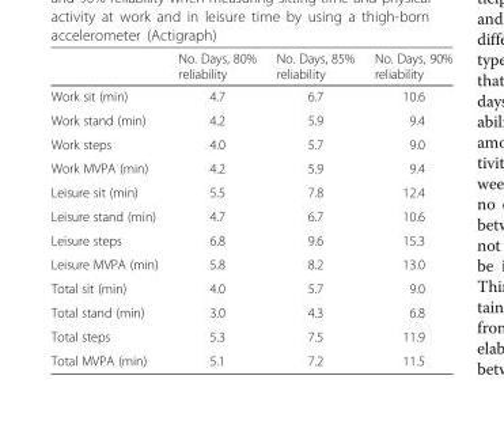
<table><thead><tr><td></td><td>No. Days, 80% reliability</td><td>No. Days, 85% reliability</td><td>No. Days, 90% reliability</td></tr></thead><tbody><tr><td>Work sit (min)</td><td>4.7</td><td>6.7</td><td>10.6</td></tr><tr><td>Work stand (min)</td><td>4.2</td><td>5.9</td><td>9.4</td></tr><tr><td>Work steps</td><td>4.0</td><td>5.7</td><td>9.0</td></tr><tr><td>Work MVPA (min)</td><td>4.2</td><td>5.9</td><td>9.4</td></tr><tr><td>Leisure sit (min)</td><td>5.5</td><td>7.8</td><td>12.4</td></tr><tr><td>Leisure stand (min)</td><td>4.7</td><td>6.7</td><td>10.6</td></tr><tr><td>Leisure steps</td><td>6.8</td><td>9.6</td><td>15.3</td></tr><tr><td>Leisure MVPA (min)</td><td>5.8</td><td>8.2</td><td>13.0</td></tr><tr><td>Total sit (min)</td><td>4.0</td><td>5.7</td><td>9.0</td></tr><tr><td>Total stand (min)</td><td>3.0</td><td>4.3</td><td>6.8</td></tr><tr><td>Total steps</td><td>5.3</td><td>7.5</td><td>11.9</td></tr><tr><td>Total MVPA (min)</td><td>5.1</td><td>7.2</td><td>11.5</td></tr></tbody></table>